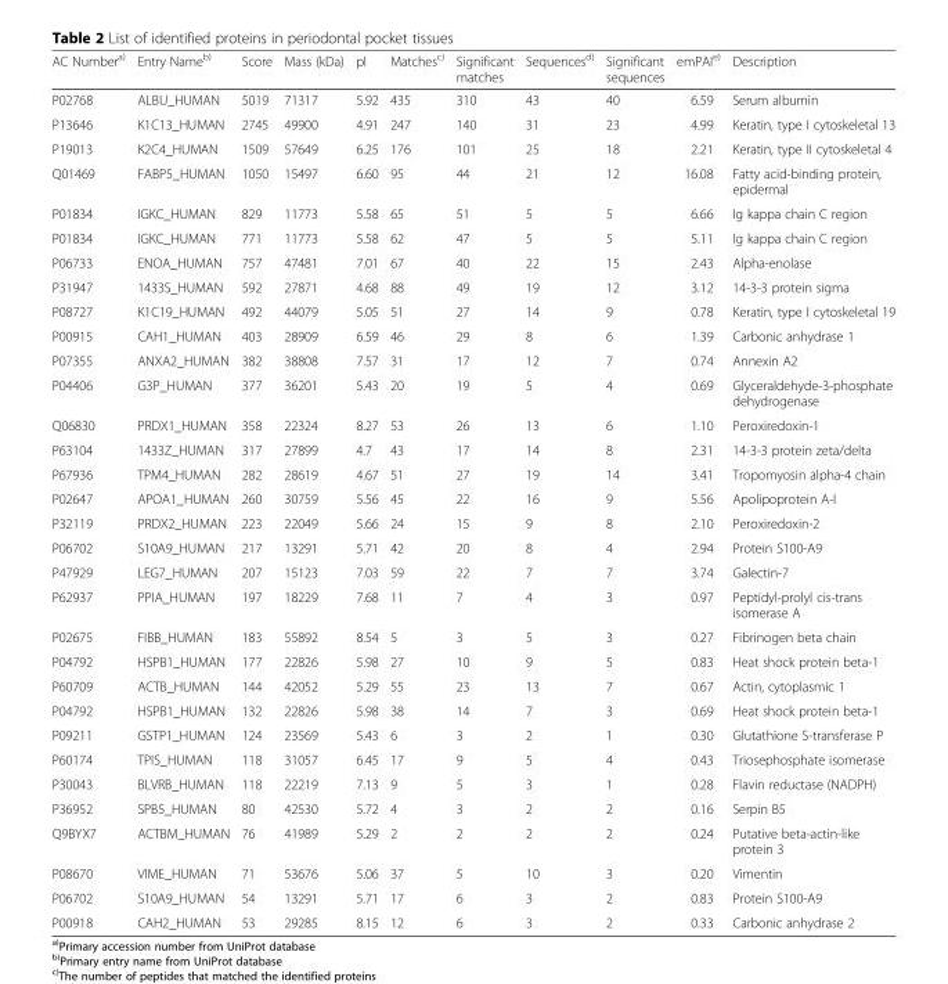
<table><thead><tr><td>AC Number<sup>a)</sup></td><td>Entry Name<sup>b)</sup></td><td>Score</td><td>Mass (kDa)</td><td>pI</td><td>Matches<sup>c)</sup></td><td>Significant matches</td><td>Sequences<sup>d)</sup></td><td>Significant sequences</td><td>emPAI<sup>e)</sup></td><td>Description</td></tr></thead><tbody><tr><td>P02768</td><td>ALBU_HUMAN</td><td>5019</td><td>71317</td><td>5.92</td><td>435</td><td>310</td><td>43</td><td>40</td><td>6.59</td><td>Serum albumin</td></tr><tr><td>P13646</td><td>K1C13_HUMAN</td><td>2745</td><td>49900</td><td>4.91</td><td>247</td><td>140</td><td>31</td><td>23</td><td>4.99</td><td>Keratin, type I cytoskeletal 13</td></tr><tr><td>P19013</td><td>K2C4_HUMAN</td><td>1509</td><td>57649</td><td>6.25</td><td>176</td><td>101</td><td>25</td><td>18</td><td>2.21</td><td>Keratin, type II cytoskeletal 4</td></tr><tr><td>Q01469</td><td>FABP5_HUMAN</td><td>1050</td><td>15497</td><td>6.60</td><td>95</td><td>44</td><td>21</td><td>12</td><td>16.08</td><td>Fatty acid-binding protein, epidermal</td></tr><tr><td>P01834</td><td>IGKC_HUMAN</td><td>829</td><td>11773</td><td>5.58</td><td>65</td><td>51</td><td>5</td><td>5</td><td>6.66</td><td>Ig kappa chain C region</td></tr><tr><td>P01834</td><td>IGKC_HUMAN</td><td>771</td><td>11773</td><td>5.58</td><td>62</td><td>47</td><td>5</td><td>5</td><td>5.11</td><td>Ig kappa chain C region</td></tr><tr><td>P06733</td><td>ENOA_HUMAN</td><td>757</td><td>47481</td><td>7.01</td><td>67</td><td>40</td><td>22</td><td>15</td><td>2.43</td><td>Alpha-enolase</td></tr><tr><td>P31947</td><td>1433S_HUMAN</td><td>592</td><td>27871</td><td>4.68</td><td>88</td><td>49</td><td>19</td><td>12</td><td>3.12</td><td>14-3-3 protein sigma</td></tr><tr><td>P08727</td><td>K1C19_HUMAN</td><td>492</td><td>44079</td><td>5.05</td><td>51</td><td>27</td><td>14</td><td>9</td><td>0.78</td><td>Keratin, type I cytoskeletal 19</td></tr><tr><td>P00915</td><td>CAH1_HUMAN</td><td>403</td><td>28909</td><td>6.59</td><td>46</td><td>29</td><td>8</td><td>6</td><td>1.39</td><td>Carbonic anhydrase 1</td></tr><tr><td>P07355</td><td>ANXA2_HUMAN</td><td>382</td><td>38808</td><td>7.57</td><td>31</td><td>17</td><td>12</td><td>7</td><td>0.74</td><td>Annexin A2</td></tr><tr><td>P04406</td><td>G3P_HUMAN</td><td>377</td><td>36201</td><td>5.43</td><td>20</td><td>19</td><td>5</td><td>4</td><td>0.69</td><td>Glyceraldehyde-3-phosphate dehydrogenase</td></tr><tr><td>Q06830</td><td>PRDX1_HUMAN</td><td>358</td><td>22324</td><td>8.27</td><td>53</td><td>26</td><td>13</td><td>6</td><td>1.10</td><td>Peroxiredoxin-1</td></tr><tr><td>P63104</td><td>1433Z_HUMAN</td><td>317</td><td>27899</td><td>4.7</td><td>43</td><td>17</td><td>14</td><td>8</td><td>2.31</td><td>14-3-3 protein zeta/delta</td></tr><tr><td>P67936</td><td>TPM4_HUMAN</td><td>282</td><td>28619</td><td>4.67</td><td>51</td><td>27</td><td>19</td><td>14</td><td>3.41</td><td>Tropomyosin alpha-4 chain</td></tr><tr><td>P02647</td><td>APOA1_HUMAN</td><td>260</td><td>30759</td><td>5.56</td><td>45</td><td>22</td><td>16</td><td>9</td><td>5.56</td><td>Apolipoprotein A-I</td></tr><tr><td>P32119</td><td>PRDX2_HUMAN</td><td>223</td><td>22049</td><td>5.66</td><td>24</td><td>15</td><td>9</td><td>8</td><td>2.10</td><td>Peroxiredoxin-2</td></tr><tr><td>P06702</td><td>S10A9_HUMAN</td><td>217</td><td>13291</td><td>5.71</td><td>42</td><td>20</td><td>8</td><td>4</td><td>2.94</td><td>Protein S100-A9</td></tr><tr><td>P47929</td><td>LEG7_HUMAN</td><td>207</td><td>15123</td><td>7.03</td><td>59</td><td>22</td><td>7</td><td>7</td><td>3.74</td><td>Galectin-7</td></tr><tr><td>P62937</td><td>PPIA_HUMAN</td><td>197</td><td>18229</td><td>7.68</td><td>11</td><td>7</td><td>4</td><td>3</td><td>0.97</td><td>Peptidyl-prolyl cis-trans isomerase A</td></tr><tr><td>P02675</td><td>FIBB_HUMAN</td><td>183</td><td>55892</td><td>8.54</td><td>5</td><td>3</td><td>5</td><td>3</td><td>0.27</td><td>Fibrinogen beta chain</td></tr><tr><td>P04792</td><td>HSPB1_HUMAN</td><td>177</td><td>22826</td><td>5.98</td><td>27</td><td>10</td><td>9</td><td>5</td><td>0.83</td><td>Heat shock protein beta-1</td></tr><tr><td>P60709</td><td>ACTB_HUMAN</td><td>144</td><td>42052</td><td>5.29</td><td>55</td><td>23</td><td>13</td><td>7</td><td>0.67</td><td>Actin, cytoplasmic 1</td></tr><tr><td>P04792</td><td>HSPB1_HUMAN</td><td>132</td><td>22826</td><td>5.98</td><td>38</td><td>14</td><td>7</td><td>3</td><td>0.69</td><td>Heat shock protein beta-1</td></tr><tr><td>P09211</td><td>GSTP1_HUMAN</td><td>124</td><td>23569</td><td>5.43</td><td>6</td><td>3</td><td>2</td><td>1</td><td>0.30</td><td>Glutathione S-transferase P</td></tr><tr><td>P60174</td><td>TPIS_HUMAN</td><td>118</td><td>31057</td><td>6.45</td><td>17</td><td>9</td><td>5</td><td>4</td><td>0.43</td><td>Triosephosphate isomerase</td></tr><tr><td>P30043</td><td>BLVRB_HUMAN</td><td>118</td><td>22219</td><td>7.13</td><td>9</td><td>5</td><td>3</td><td>1</td><td>0.28</td><td>Flavin reductase (NADPH)</td></tr><tr><td>P36952</td><td>SPB5_HUMAN</td><td>80</td><td>42530</td><td>5.72</td><td>4</td><td>3</td><td>2</td><td>2</td><td>0.16</td><td>Serpin B5</td></tr><tr><td>Q9BYX7</td><td>ACTBM_HUMAN</td><td>76</td><td>41989</td><td>5.29</td><td>2</td><td>2</td><td>2</td><td>2</td><td>0.24</td><td>Putative beta-actin-like protein 3</td></tr><tr><td>P08670</td><td>VIME_HUMAN</td><td>71</td><td>53676</td><td>5.06</td><td>37</td><td>5</td><td>10</td><td>3</td><td>0.20</td><td>Vimentin</td></tr><tr><td>P06702</td><td>S10A9_HUMAN</td><td>54</td><td>13291</td><td>5.71</td><td>17</td><td>6</td><td>3</td><td>2</td><td>0.83</td><td>Protein S100-A9</td></tr><tr><td>P00918</td><td>CAH2_HUMAN</td><td>53</td><td>29285</td><td>8.15</td><td>12</td><td>6</td><td>3</td><td>2</td><td>0.33</td><td>Carbonic anhydrase 2</td></tr></tbody></table>